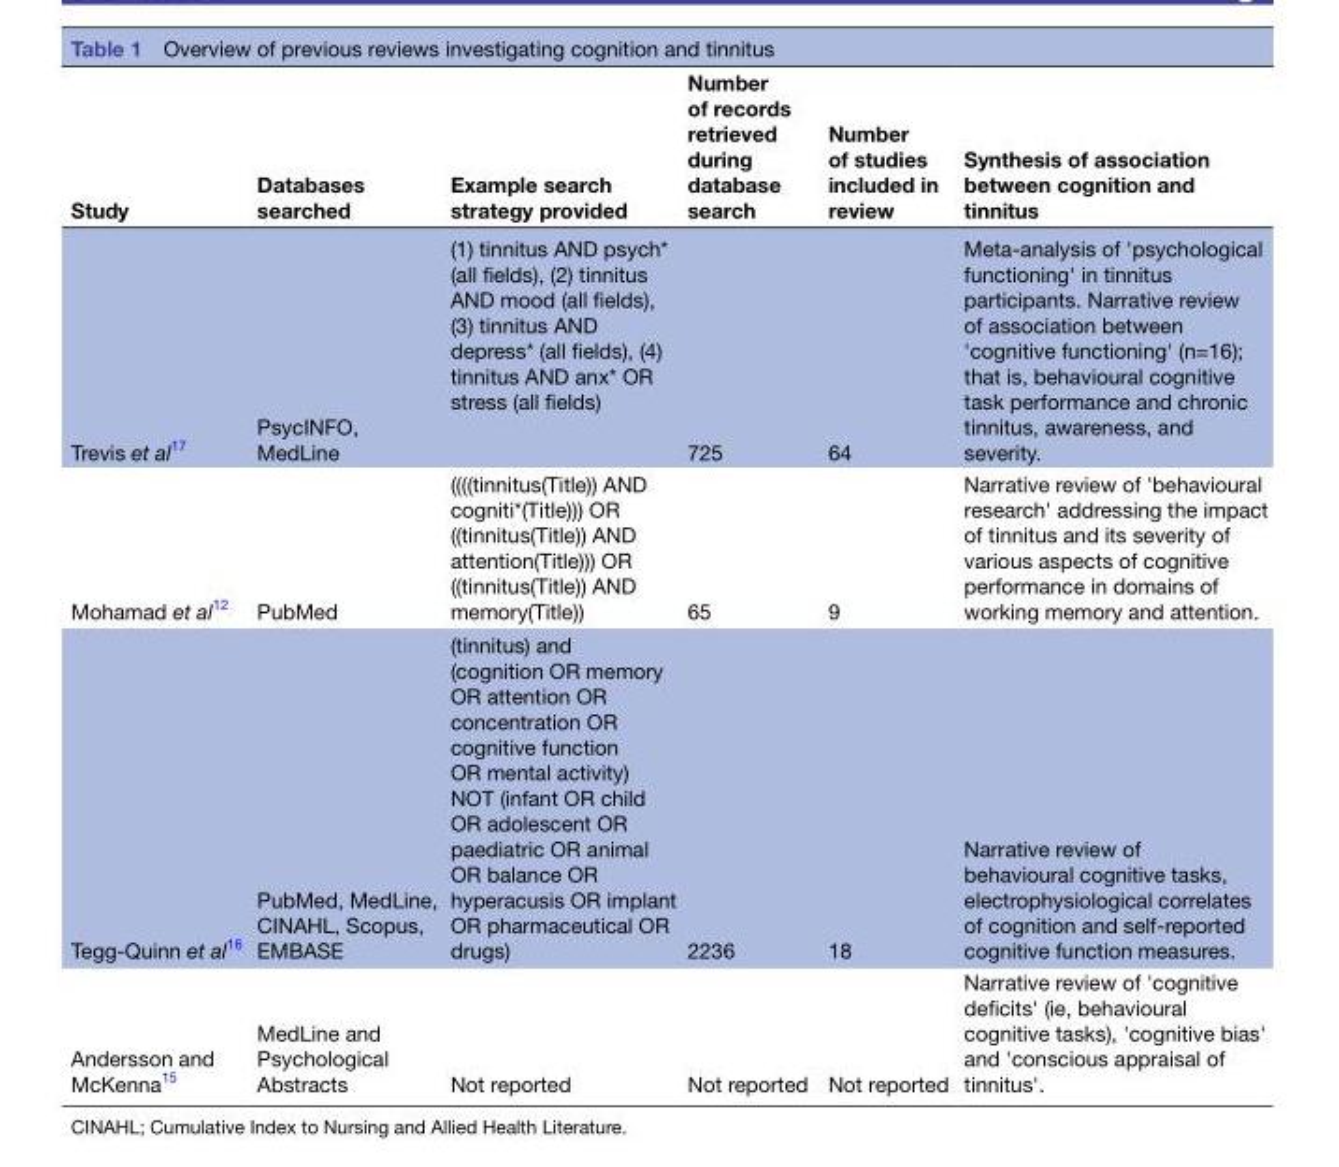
<table><thead><tr><td>Study</td><td>Databases searched</td><td>Example search strategy provided</td><td>Number of records retrieved during database search</td><td>Number of studies included in review</td><td>Synthesis of association between cognition and tinnitus</td></tr></thead><tbody><tr><td>Trevis et al17</td><td>PsycINFO, MedLine</td><td>(1) tinnitus AND psych* (all fields), (2) tinnitus AND mood (all fields), (3) tinnitus AND depress* (all fields), (4) tinnitus AND anx* OR stress (all fields)</td><td>725</td><td>64</td><td>Meta-analysis of &#x27;psychological functioning&#x27; in tinnitus participants. Narrative review of association between &#x27;cognitive functioning&#x27; (n=16); that is, behavioural cognitive task performance and chronic tinnitus, awareness, and severity.</td></tr><tr><td>Mohamad et al12</td><td>PubMed</td><td>((((tinnitus(Title)) AND cogniti*(Title))) OR ((tinnitus(Title)) AND attention(Title))) OR ((tinnitus(Title)) AND memory(Title))</td><td>65</td><td>9</td><td>Narrative review of &#x27;behavioural research&#x27; addressing the impact of tinnitus and its severity of various aspects of cognitive performance in domains of working memory and attention.</td></tr><tr><td>Tegg-Quinn et al16</td><td>PubMed, MedLine, CINAHL, Scopus, EMBASE</td><td>(tinnitus) and (cognition OR memory OR attention OR concentration OR cognitive function OR mental activity) NOT (infant OR child OR adolescent OR paediatric OR animal OR balance OR hyperacusis OR implant OR pharmaceutical OR drugs)</td><td>2236</td><td>18</td><td>Narrative review of behavioural cognitive tasks, electrophysiological correlates of cognition and self-reported cognitive function measures.</td></tr><tr><td>Andersson and McKenna<sup>15</sup></td><td>MedLine and Psychological Abstracts</td><td>Not reported</td><td>Not reported</td><td>Not reported</td><td>Narrative review of &#x27;cognitive deficits&#x27; (ie, behavioural cognitive tasks), &#x27;cognitive bias&#x27; and &#x27;conscious appraisal of tinnitus&#x27;.</td></tr></tbody></table>